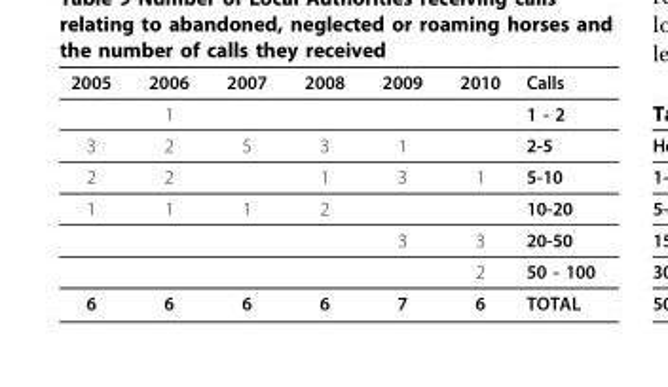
<table><thead><tr><td>2005</td><td>2006</td><td>2007</td><td>2008</td><td>2009</td><td>2010</td><td>Calls</td></tr></thead><tbody><tr><td></td><td>1</td><td></td><td></td><td></td><td></td><td>1 - 2</td></tr><tr><td>3</td><td>2</td><td>5</td><td>3</td><td>1</td><td></td><td>2-5</td></tr><tr><td>2</td><td>2</td><td></td><td>1</td><td>3</td><td>1</td><td>5-10</td></tr><tr><td rowspan="3">1</td><td>1</td><td>1</td><td>2</td><td></td><td></td><td>10-20</td></tr><tr><td></td><td></td><td></td><td>3</td><td>3</td><td>20-50</td></tr><tr><td></td><td></td><td></td><td></td><td>2</td><td>50 - 100</td></tr><tr><td>6</td><td>6</td><td>6</td><td>6</td><td>7</td><td>6</td><td>TOTAL</td></tr></tbody></table>